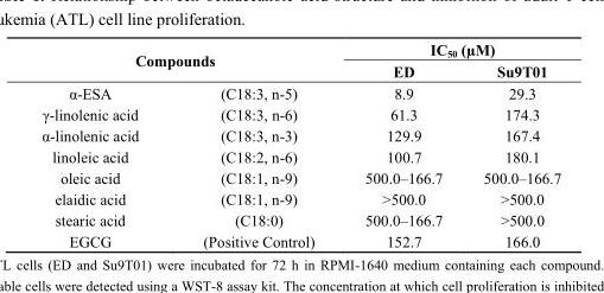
<table><thead><tr><td rowspan="2" colspan="2">Compounds</td><td colspan="2">IC<sub>50</sub> (µM)</td></tr><tr><td rowspan="2">ED 8.9</td><td rowspan="2">Su9T01 29.3</td></tr><tr><td>α-ESA</td><td>(C18:3, n-5)</td></tr></thead><tbody><tr><td>γ-linolenic acid</td><td>(C18:3, n-6)</td><td>61.3</td><td>174.3</td></tr><tr><td>α-linolenic acid</td><td>(C18:3, n-3)</td><td>129.9</td><td>167.4</td></tr><tr><td>linoleic acid</td><td>(C18:2, n-6)</td><td>100.7</td><td>180.1</td></tr><tr><td>oleic acid</td><td>(C18:1, n-9)</td><td>500.0–166.7</td><td>500.0–166.7</td></tr><tr><td>elaidic acid</td><td>(C18:1, n-9)</td><td>&gt;500.0</td><td>&gt;500.0</td></tr><tr><td>stearic acid</td><td>(C18:0)</td><td>500.0–166.7</td><td>&gt;500.0</td></tr><tr><td>EGCG</td><td>(Positive Control)</td><td>152.7</td><td>166.0</td></tr></tbody></table>